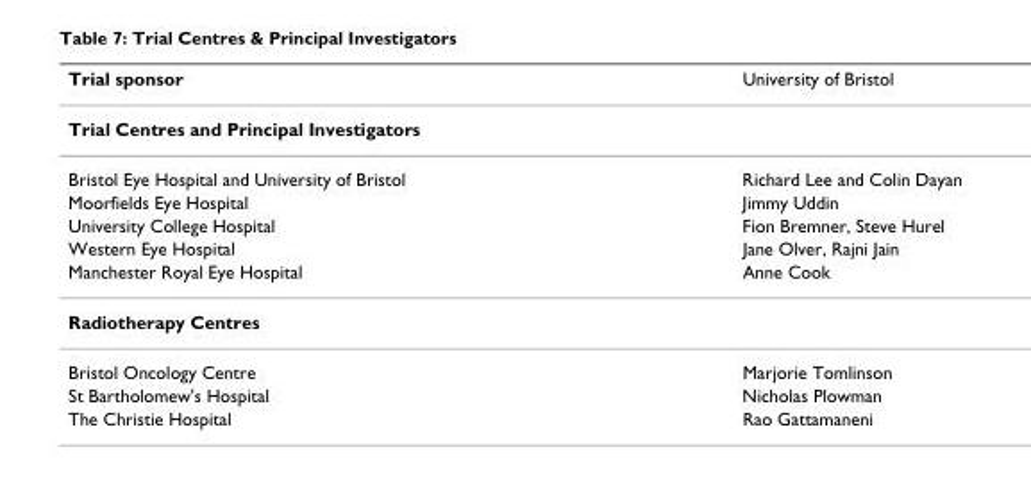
<table><thead><tr><td>Trial sponsor</td><td>University of Bristol</td></tr></thead><tbody><tr><td colspan="2">Trial Centres and Principal Investigators</td></tr><tr><td>Bristol Eye Hospital and University of Bristol</td><td>Richard Lee and Colin Dayan</td></tr><tr><td>Moorfields Eye Hospital</td><td>Jimmy Uddin</td></tr><tr><td>University College Hospital</td><td>Fion Bremner, Steve Hurel</td></tr><tr><td>Western Eye Hospital</td><td>Jane Olver, Rajni Jain</td></tr><tr><td>Manchester Royal Eye Hospital</td><td>Anne Cook</td></tr><tr><td colspan="2">Radiotherapy Centres</td></tr><tr><td>Bristol Oncology Centre</td><td>Marjorie Tomlinson</td></tr><tr><td>St Bartholomew&#x27;s Hospital</td><td>Nicholas Plowman</td></tr><tr><td>The Christie Hospital</td><td>Rao Gattamaneni</td></tr></tbody></table>